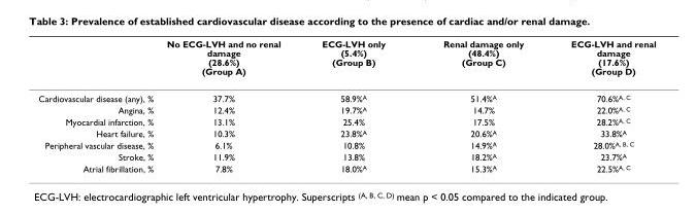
<table><thead><tr><td></td><td>No ECG-LVH and no renal damage (28.6%) (Group A)</td><td>ECG-LVH only (5.4%) (Group B)</td><td>Renal damage only (48.4%) (Group C)</td><td>ECG-LVH and renal damage (17.6%) (Group D)</td></tr></thead><tbody><tr><td>Cardiovascular disease (any), %</td><td>37.7%</td><td>58.9%<sup>A</sup></td><td>51.4%<sup>A</sup></td><td>70.6%<sup>A, C</sup></td></tr><tr><td>Angina, %</td><td>12.4%</td><td>19.7%<sup>A</sup></td><td>14.7%</td><td>22.0%<sup>A, C</sup></td></tr><tr><td>Myocardial infarction, %</td><td>13.1%</td><td>25.4%</td><td>17.5%</td><td>28.2%<sup>A, C</sup></td></tr><tr><td>Heart failure, %</td><td>10.3%</td><td>23.8%<sup>A</sup></td><td>20.6%<sup>A</sup></td><td>33.8%<sup>A</sup></td></tr><tr><td>Peripheral vascular disease, %</td><td>6.1%</td><td>10.8%</td><td>14.9%<sup>A</sup></td><td>28.0%<sup>A, B, C</sup></td></tr><tr><td>Stroke, %</td><td>11.9%</td><td>13.8%</td><td>18.2%<sup>A</sup></td><td>23.7%<sup>A</sup></td></tr><tr><td>Atrial fibrillation, %</td><td>7.8%</td><td>18.0%<sup>A</sup></td><td>15.3%<sup>A</sup></td><td>22.5%<sup>A, C</sup></td></tr></tbody></table>